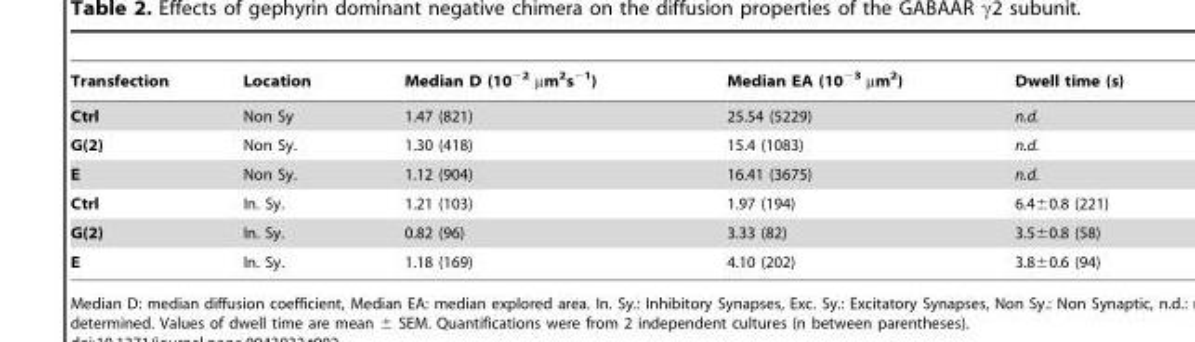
<table><thead><tr><td>Transfection</td><td>Location</td><td>Median D (10<sup>−2</sup> µm<sup>2</sup>s<sup>−1</sup>)</td><td>Median EA (10<sup>−3</sup> µm<sup>2</sup>)</td><td>Dwell time (s)</td></tr></thead><tbody><tr><td>Ctrl</td><td>Non Sy</td><td>1.47 (821)</td><td>25.54 (5229)</td><td>n.d.</td></tr><tr><td>G(2)</td><td>Non Sy.</td><td>1.30 (418)</td><td>15.4 (1083)</td><td>n.d.</td></tr><tr><td>E</td><td>Non Sy.</td><td>1.12 (904)</td><td>16.41 (3675)</td><td>n.d.</td></tr><tr><td>Ctrl</td><td>In. Sy.</td><td>1.21 (103)</td><td>1.97 (194)</td><td>6.4±0.8 (221)</td></tr><tr><td>G(2)</td><td>In. Sy.</td><td>0.82 (96)</td><td>3.33 (82)</td><td>3.5±0.8 (58)</td></tr><tr><td>E</td><td>In. Sy.</td><td>1.18 (169)</td><td>4.10 (202)</td><td>3.8±0.6 (94)</td></tr></tbody></table>